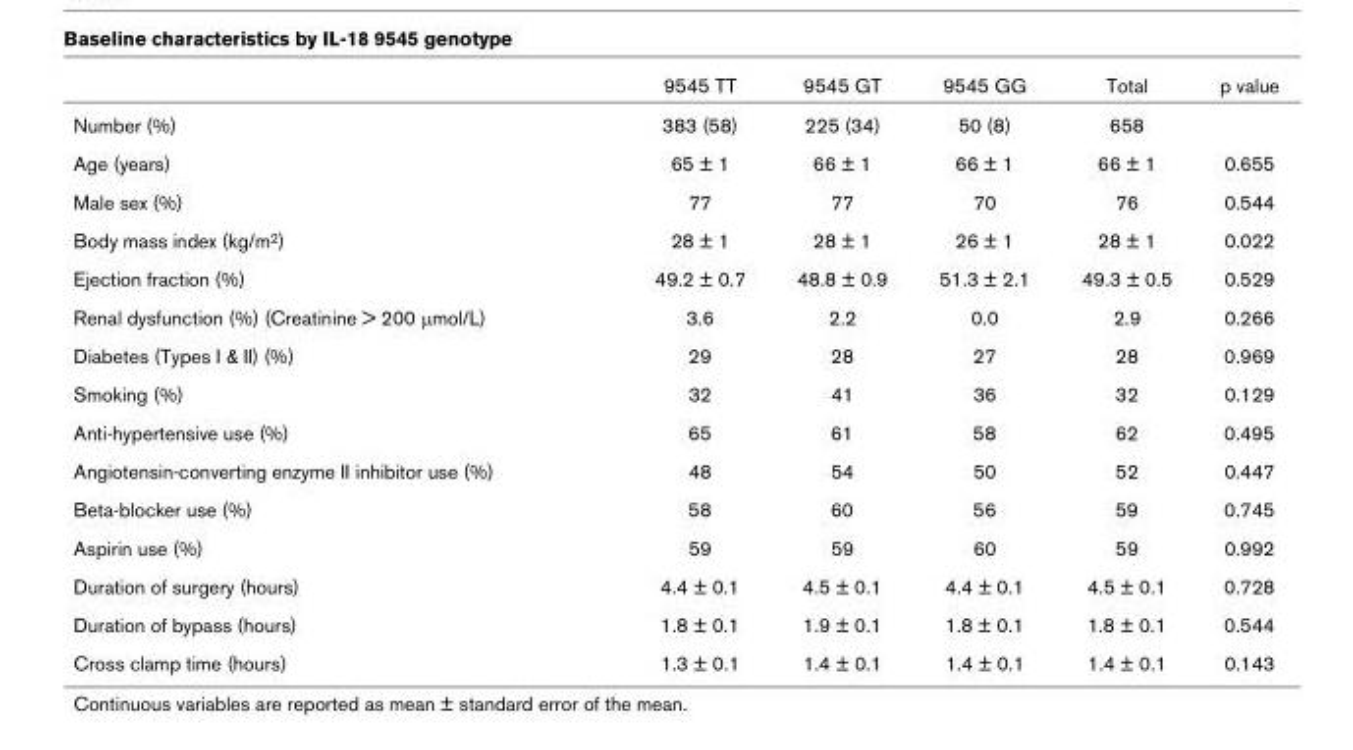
<table><thead><tr><td></td><td>9545 TT</td><td>9545 GT</td><td>9545 GG</td><td>Total</td><td>p value</td></tr></thead><tbody><tr><td>Number (%)</td><td>383 (58)</td><td>225 (34)</td><td>50 (8)</td><td>658</td><td></td></tr><tr><td>Age (years)</td><td>65 ± 1</td><td>66 ± 1</td><td>66 ± 1</td><td>66 ± 1</td><td>0.655</td></tr><tr><td>Male sex (%)</td><td>77</td><td>77</td><td>70</td><td>76</td><td>0.544</td></tr><tr><td>Body mass index (kg/m<sup>2</sup>)</td><td>28 ± 1</td><td>28 ± 1</td><td>26 ± 1</td><td>28 ± 1</td><td>0.022</td></tr><tr><td>Ejection fraction (%)</td><td>49.2 ± 0.7</td><td>48.8 ± 0.9</td><td>51.3 ± 2.1</td><td>49.3 ± 0.5</td><td>0.529</td></tr><tr><td>Renal dysfunction (%) (Creatinine &gt; 200 μmol/L)</td><td>3.6</td><td>2.2</td><td>0.0</td><td>2.9</td><td>0.266</td></tr><tr><td>Diabetes (Types I &amp; II) (%)</td><td>29</td><td>28</td><td>27</td><td>28</td><td>0.969</td></tr><tr><td>Smoking (%)</td><td>32</td><td>41</td><td>36</td><td>32</td><td>0.129</td></tr><tr><td>Anti-hypertensive use (%)</td><td>65</td><td>61</td><td>58</td><td>62</td><td>0.495</td></tr><tr><td>Angiotensin-converting enzyme II inhibitor use (%)</td><td>48</td><td>54</td><td>50</td><td>52</td><td>0.447</td></tr><tr><td>Beta-blocker use (%)</td><td>58</td><td>60</td><td>56</td><td>59</td><td>0.745</td></tr><tr><td>Aspirin use (%)</td><td>59</td><td>59</td><td>60</td><td>59</td><td>0.992</td></tr><tr><td>Duration of surgery (hours)</td><td>4.4 ± 0.1</td><td>4.5 ± 0.1</td><td>4.4 ± 0.1</td><td>4.5 ± 0.1</td><td>0.728</td></tr><tr><td>Duration of bypass (hours)</td><td>1.8 ± 0.1</td><td>1.9 ± 0.1</td><td>1.8 ± 0.1</td><td>1.8 ± 0.1</td><td>0.544</td></tr><tr><td>Cross clamp time (hours)</td><td>1.3 ± 0.1</td><td>1.4 ± 0.1</td><td>1.4 ± 0.1</td><td>1.4 ± 0.1</td><td>0.143</td></tr></tbody></table>